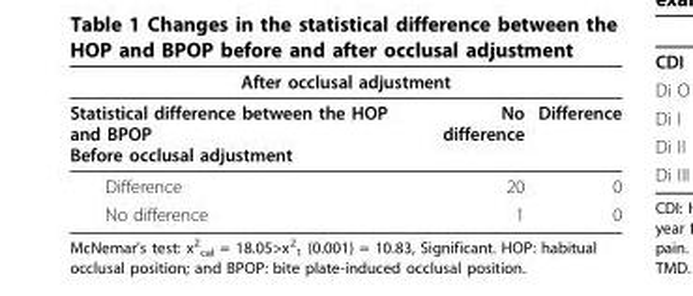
<table><tbody><tr><td colspan="3">After occlusal adjustment</td></tr><tr><td>Statistical difference between the HOP and BPOP Before occlusal adjustment</td><td>No difference</td><td>Difference</td></tr><tr><td>Difference</td><td>20</td><td>0</td></tr><tr><td>No difference</td><td>1</td><td>0</td></tr></tbody></table>